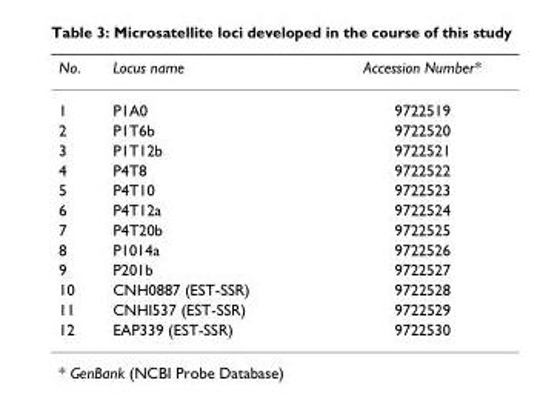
<table><thead><tr><td>No.</td><td>Locus name</td><td>Accession Number*</td></tr></thead><tbody><tr><td>1</td><td>P1A0</td><td>9722519</td></tr><tr><td>2</td><td>P1T6b</td><td>9722520</td></tr><tr><td>3</td><td>P1T12b</td><td>9722521</td></tr><tr><td>4</td><td>P4T8</td><td>9722522</td></tr><tr><td>5</td><td>P4T10</td><td>9722523</td></tr><tr><td>6</td><td>P4T12a</td><td>9722524</td></tr><tr><td>7</td><td>P4T20b</td><td>9722525</td></tr><tr><td>8</td><td>P1014a</td><td>9722526</td></tr><tr><td>9</td><td>P201b</td><td>9722527</td></tr><tr><td>10</td><td>CNH0887 (EST-SSR)</td><td>9722528</td></tr><tr><td>11</td><td>CNHI537 (EST-SSR)</td><td>9722529</td></tr><tr><td>12</td><td>EAP339 (EST-SSR)</td><td>9722530</td></tr></tbody></table>